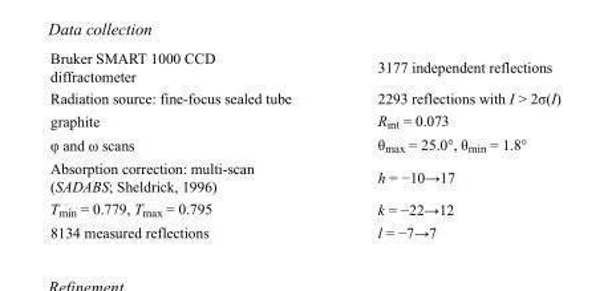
<table><tbody><tr><td>Bruker SMART 1000 CCD diffractometer</td><td>3177 independent reflections</td></tr><tr><td>Radiation source: fine-focus sealed tube</td><td>2293 reflections with I &gt; 2σ(I)</td></tr><tr><td>graphite</td><td>R<sub>int</sub> = 0.073</td></tr><tr><td>φ and ω scans</td><td>θ<sub>max</sub> = 25.0°, θ<sub>min</sub> = 1.8°</td></tr><tr><td>Absorption correction: multi-scan (SADABS; Sheldrick, 1996)</td><td>h = −10→17</td></tr><tr><td>T<sub>min</sub> = 0.779, T<sub>max</sub> = 0.795</td><td>k = −22→12</td></tr><tr><td>8134 measured reflections</td><td>l = −7→7</td></tr></tbody></table>